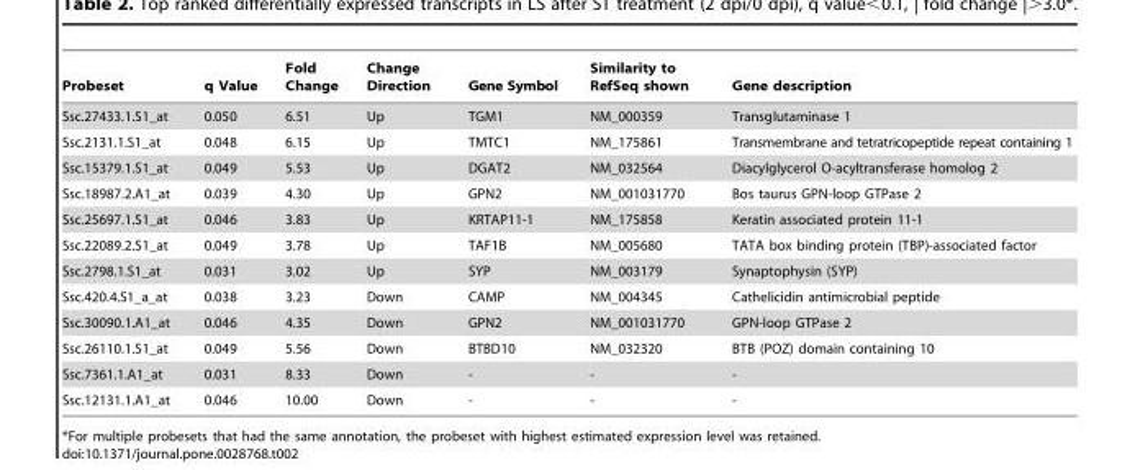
<table><thead><tr><td>Probeset</td><td>q Value</td><td>Fold Change</td><td>Change Direction</td><td>Gene Symbol</td><td>Similarity to RefSeq shown</td><td>Gene description</td></tr></thead><tbody><tr><td>Ssc.27433.1.S1_at</td><td>0.050</td><td>6.51</td><td>Up</td><td>TGM1</td><td>NM_000359</td><td>Transglutaminase 1</td></tr><tr><td>Ssc.2131.1.S1_at</td><td>0.048</td><td>6.15</td><td>Up</td><td>TMTC1</td><td>NM_175861</td><td>Transmembrane and tetratricopeptide repeat containing 1</td></tr><tr><td>Ssc.15379.1.S1_at</td><td>0.049</td><td>5.53</td><td>Up</td><td>DGAT2</td><td>NM_032564</td><td>Diacylglycerol O-acyltransferase homolog 2</td></tr><tr><td>Ssc.18987.2.A1_at</td><td>0.039</td><td>4.30</td><td>Up</td><td>GPN2</td><td>NM_001031770</td><td>Bos taurus GPN-loop GTPase 2</td></tr><tr><td>Ssc.25697.1.S1_at</td><td>0.046</td><td>3.83</td><td>Up</td><td>KRTAP11-1</td><td>NM_175858</td><td>Keratin associated protein 11-1</td></tr><tr><td>Ssc.22089.2.S1_at</td><td>0.049</td><td>3.78</td><td>Up</td><td>TAF1B</td><td>NM_005680</td><td>TATA box binding protein (TBP)-associated factor</td></tr><tr><td>Ssc.2798.1.S1_at</td><td>0.031</td><td>3.02</td><td>Up</td><td>SYP</td><td>NM_003179</td><td>Synaptophysin (SYP)</td></tr><tr><td>Ssc.420.4.S1_a_at</td><td>0.038</td><td>3.23</td><td>Down</td><td>CAMP</td><td>NM_004345</td><td>Cathelicidin antimicrobial peptide</td></tr><tr><td>Ssc.30090.1.A1_at</td><td>0.046</td><td>4.35</td><td>Down</td><td>GPN2</td><td>NM_001031770</td><td>GPN-loop GTPase 2</td></tr><tr><td>Ssc.26110.1.S1_at</td><td>0.049</td><td>5.56</td><td>Down</td><td>BTBD10</td><td>NM_032320</td><td>BTB (POZ) domain containing 10</td></tr><tr><td>Ssc.7361.1.A1_at</td><td>0.031</td><td>8.33</td><td>Down</td><td>-</td><td>-</td><td>-</td></tr><tr><td>Ssc.12131.1.A1_at</td><td>0.046</td><td>10.00</td><td>Down</td><td>-</td><td>-</td><td>-</td></tr></tbody></table>